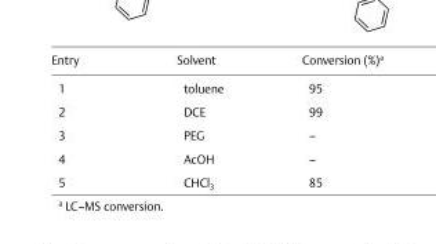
<table><thead><tr><td>Entry</td><td>Solvent</td><td>Conversion (%)<sup>a</sup></td></tr></thead><tbody><tr><td>1</td><td>toluene</td><td>95</td></tr><tr><td>2</td><td>DCE</td><td>99</td></tr><tr><td>3</td><td>PEG</td><td>–</td></tr><tr><td>4</td><td>AcOH</td><td>–</td></tr><tr><td>5</td><td>CHCl<sub>3</sub></td><td>85</td></tr></tbody></table>